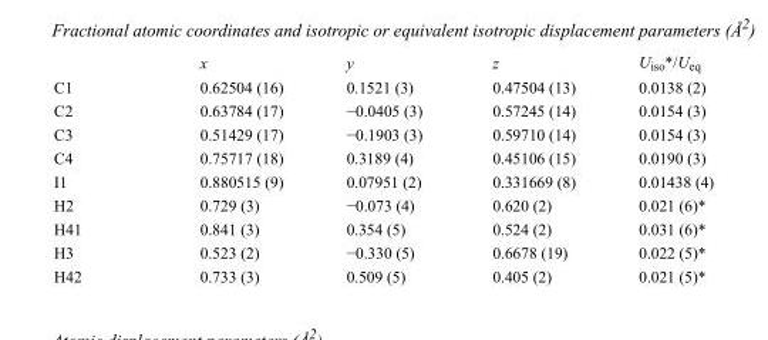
<table><thead><tr><td></td><td>x</td><td>y</td><td>z</td><td>U<sub>iso</sub>*/U<sub>eq</sub></td></tr></thead><tbody><tr><td>C1</td><td>0.62504 (16)</td><td>0.1521 (3)</td><td>0.47504 (13)</td><td>0.0138 (2)</td></tr><tr><td>C2</td><td>0.63784 (17)</td><td>−0.0405 (3)</td><td>0.57245 (14)</td><td>0.0154 (3)</td></tr><tr><td>C3</td><td>0.51429 (17)</td><td>−0.1903 (3)</td><td>0.59710 (14)</td><td>0.0154 (3)</td></tr><tr><td>C4</td><td>0.75717 (18)</td><td>0.3189 (4)</td><td>0.45106 (15)</td><td>0.0190 (3)</td></tr><tr><td>I1</td><td>0.880515 (9)</td><td>0.07951 (2)</td><td>0.331669 (8)</td><td>0.01438 (4)</td></tr><tr><td>H2</td><td>0.729 (3)</td><td>−0.073 (4)</td><td>0.620 (2)</td><td>0.021 (6)*</td></tr><tr><td>H41</td><td>0.841 (3)</td><td>0.354 (5)</td><td>0.524 (2)</td><td>0.031 (6)*</td></tr><tr><td>H3</td><td>0.523 (2)</td><td>−0.330 (5)</td><td>0.6678 (19)</td><td>0.022 (5)*</td></tr><tr><td>H42</td><td>0.733 (3)</td><td>0.509 (5)</td><td>0.405 (2)</td><td>0.021 (5)*</td></tr></tbody></table>